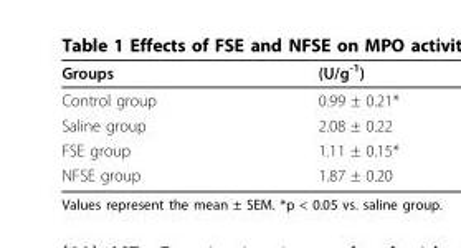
<table><thead><tr><td>Groups</td><td>(U/g<sup>-1</sup>)</td></tr></thead><tbody><tr><td>Control group</td><td>0.99 ± 0.21*</td></tr><tr><td>Saline group</td><td>2.08 ± 0.22</td></tr><tr><td>FSE group</td><td>1.11 ± 0.15*</td></tr><tr><td>NFSE group</td><td>1.87 ± 0.20</td></tr></tbody></table>